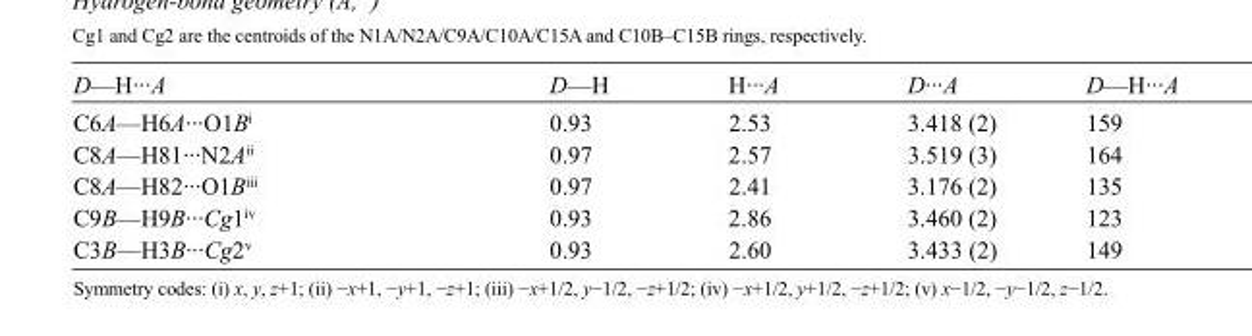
<table><tbody><tr><td>D—H···A</td><td>D—H</td><td>H···A</td><td>D···A</td><td>D—H···A</td></tr><tr><td>C6A—H6A···O1B<sup>i</sup></td><td>0.93</td><td>2.53</td><td>3.418 (2)</td><td>159</td></tr><tr><td>C8A—H81···N2A<sup>ii</sup></td><td>0.97</td><td>2.57</td><td>3.519 (3)</td><td>164</td></tr><tr><td>C8A—H82···O1B<sup>iii</sup></td><td>0.97</td><td>2.41</td><td>3.176 (2)</td><td>135</td></tr><tr><td>C9B—H9B···Cg1<sup>iv</sup></td><td>0.93</td><td>2.86</td><td>3.460 (2)</td><td>123</td></tr><tr><td>C3B—H3B···Cg2<sup>v</sup></td><td>0.93</td><td>2.60</td><td>3.433 (2)</td><td>149</td></tr></tbody></table>